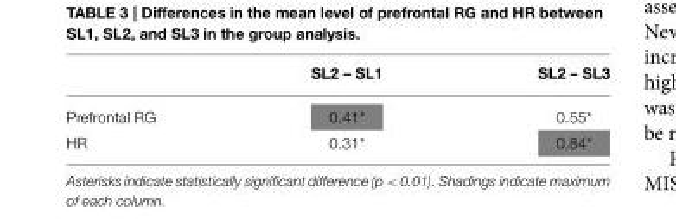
<table><thead><tr><td></td><td>SL2 – SL1</td><td>SL2 – SL3</td></tr></thead><tbody><tr><td>Prefrontal RG</td><td>0.41*</td><td>0.55*</td></tr><tr><td>HR</td><td>0.31*</td><td>0.84*</td></tr></tbody></table>